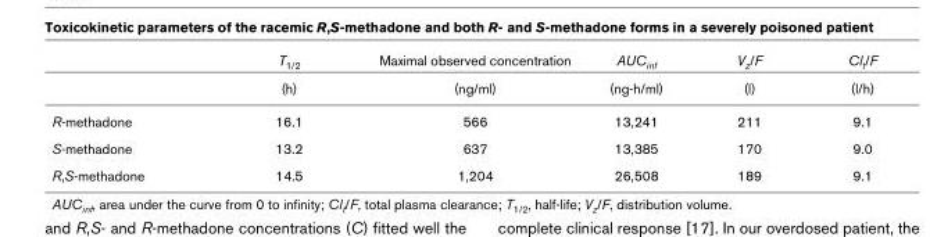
<table><thead><tr><td></td><td>T<sub>1/2</sub></td><td>Maximal observed concentration</td><td>AUC<sub>inf</sub></td><td>V<sub>z</sub>/F</td><td>Cl<sub>t</sub>/F</td></tr></thead><tbody><tr><td></td><td>(h)</td><td>(ng/ml)</td><td>(ng-h/ml)</td><td>(l)</td><td>(l/h)</td></tr><tr><td>R-methadone</td><td>16.1</td><td>566</td><td>13,241</td><td>211</td><td>9.1</td></tr><tr><td>S-methadone</td><td>13.2</td><td>637</td><td>13,385</td><td>170</td><td>9.0</td></tr><tr><td>R,S-methadone</td><td>14.5</td><td>1,204</td><td>26,508</td><td>189</td><td>9.1</td></tr></tbody></table>